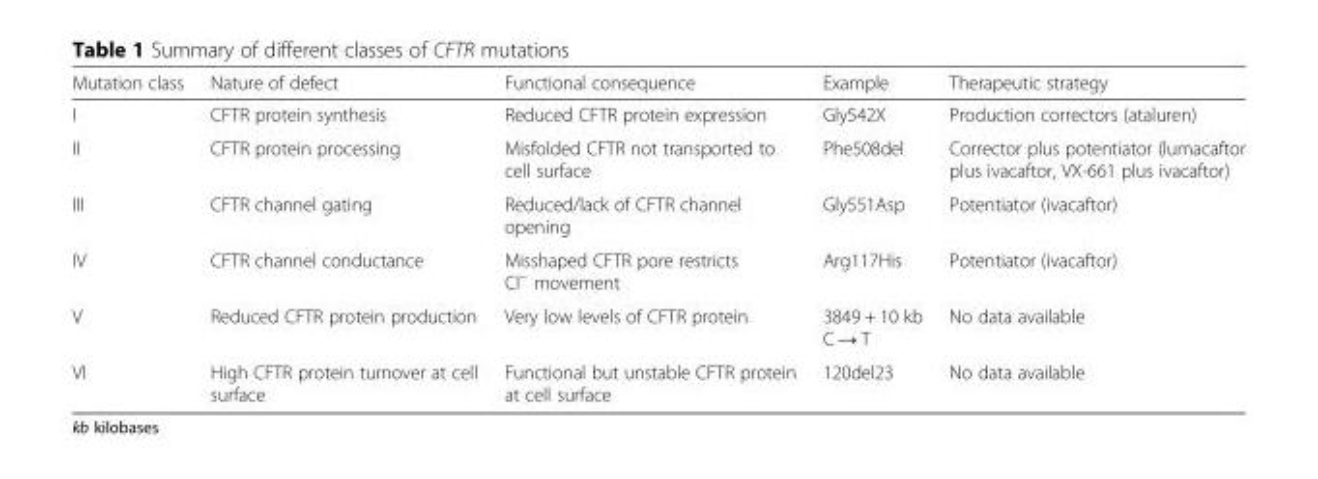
<table><thead><tr><td>Mutation class</td><td>Nature of defect</td><td>Functional consequence</td><td>Example</td><td>Therapeutic strategy</td></tr></thead><tbody><tr><td>I</td><td>CFTR protein synthesis</td><td>Reduced CFTR protein expression</td><td>Gly542X</td><td>Production correctors (ataluren)</td></tr><tr><td>II</td><td>CFTR protein processing</td><td>Misfolded CFTR not transported to cell surface</td><td>Phe508del</td><td>Corrector plus potentiator (lumacaftor plus ivacaftor, VX-661 plus ivacaftor)</td></tr><tr><td>III</td><td>CFTR channel gating</td><td>Reduced/lack of CFTR channel opening</td><td>Gly551Asp</td><td>Potentiator (ivacaftor)</td></tr><tr><td>IV</td><td>CFTR channel conductance</td><td>Misshaped CFTR pore restricts Cl<sup>−</sup> movement</td><td>Arg117His</td><td>Potentiator (ivacaftor)</td></tr><tr><td>V</td><td>Reduced CFTR protein production</td><td>Very low levels of CFTR protein</td><td>3849 + 10 kb C → T</td><td>No data available</td></tr><tr><td>VI</td><td>High CFTR protein turnover at cell surface</td><td>Functional but unstable CFTR protein at cell surface</td><td>120del23</td><td>No data available</td></tr></tbody></table>